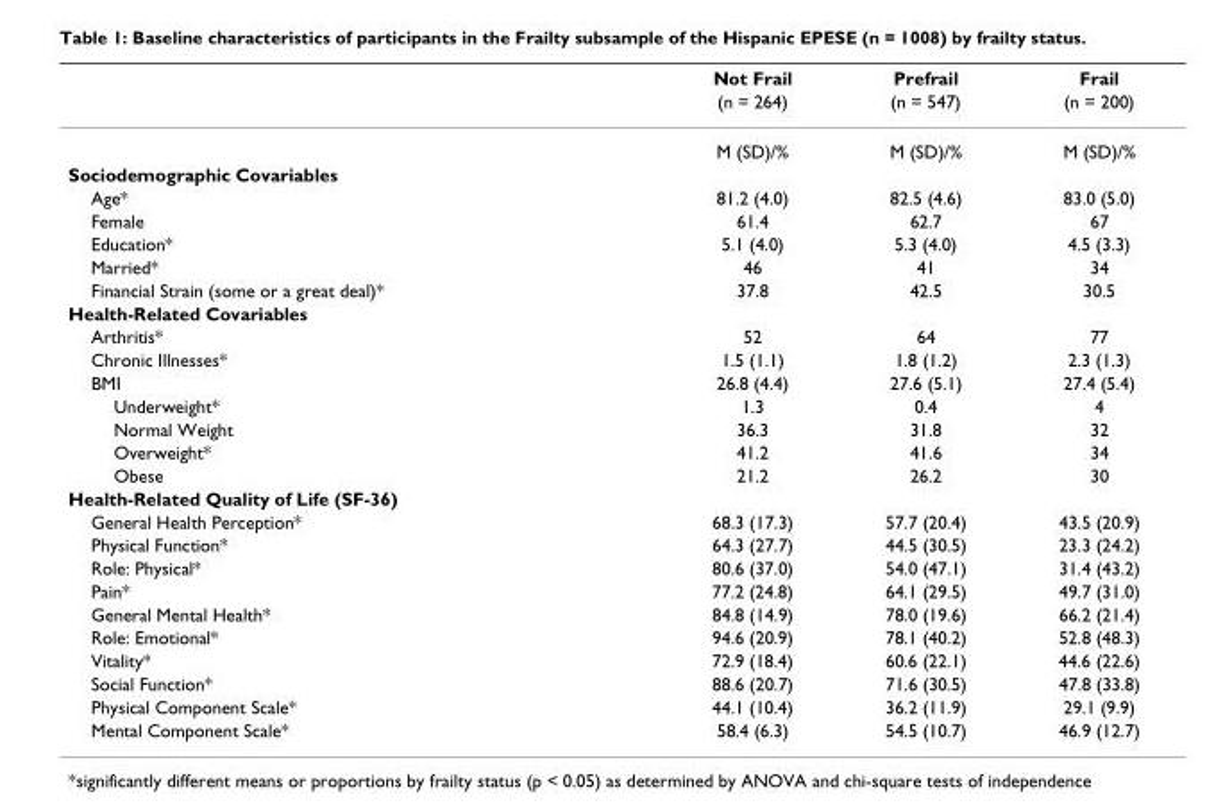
<table><thead><tr><td rowspan="2"></td><td rowspan="2">Not Frail (n = 264)</td><td rowspan="2">Prefrail (n = 547)</td><td rowspan="2">Frail (n = 200)</td></tr><tr></tr></thead><tbody><tr><td></td><td>M (SD)/%</td><td>M (SD)/%</td><td>M (SD)/%</td></tr><tr><td colspan="4">Sociodemographic Covariables</td></tr><tr><td>Age*</td><td>81.2 (4.0)</td><td>82.5 (4.6)</td><td>83.0 (5.0)</td></tr><tr><td>Female</td><td>61.4</td><td>62.7</td><td>67</td></tr><tr><td>Education*</td><td>5.1 (4.0)</td><td>5.3 (4.0)</td><td>4.5 (3.3)</td></tr><tr><td>Married*</td><td>46</td><td>41</td><td>34</td></tr><tr><td>Financial Strain (some or a great deal)*</td><td>37.8</td><td>42.5</td><td>30.5</td></tr><tr><td colspan="4">Health-Related Covariables</td></tr><tr><td>Arthritis*</td><td>52</td><td>64</td><td>77</td></tr><tr><td>Chronic Illnesses*</td><td>1.5 (1.1)</td><td>1.8 (1.2)</td><td>2.3 (1.3)</td></tr><tr><td>BMI</td><td>26.8 (4.4)</td><td>27.6 (5.1)</td><td>27.4 (5.4)</td></tr><tr><td>Underweight*</td><td>1.3</td><td>0.4</td><td>4</td></tr><tr><td>Normal Weight</td><td>36.3</td><td>31.8</td><td>32</td></tr><tr><td>Overweight*</td><td>41.2</td><td>41.6</td><td>34</td></tr><tr><td>Obese</td><td>21.2</td><td>26.2</td><td>30</td></tr><tr><td colspan="4">Health-Related Quality of Life (SF-36)</td></tr><tr><td>General Health Perception*</td><td>68.3 (17.3)</td><td>57.7 (20.4)</td><td>43.5 (20.9)</td></tr><tr><td>Physical Function*</td><td>64.3 (27.7)</td><td>44.5 (30.5)</td><td>23.3 (24.2)</td></tr><tr><td>Role: Physical*</td><td>80.6 (37.0)</td><td>54.0 (47.1)</td><td>31.4 (43.2)</td></tr><tr><td>Pain*</td><td>77.2 (24.8)</td><td>64.1 (29.5)</td><td>49.7 (31.0)</td></tr><tr><td>General Mental Health*</td><td>84.8 (14.9)</td><td>78.0 (19.6)</td><td>66.2 (21.4)</td></tr><tr><td>Role: Emotional*</td><td>94.6 (20.9)</td><td>78.1 (40.2)</td><td>52.8 (48.3)</td></tr><tr><td>Vitality*</td><td>72.9 (18.4)</td><td>60.6 (22.1)</td><td>44.6 (22.6)</td></tr><tr><td>Social Function*</td><td>88.6 (20.7)</td><td>71.6 (30.5)</td><td>47.8 (33.8)</td></tr><tr><td>Physical Component Scale*</td><td>44.1 (10.4)</td><td>36.2 (11.9)</td><td>29.1 (9.9)</td></tr><tr><td>Mental Component Scale*</td><td>58.4 (6.3)</td><td>54.5 (10.7)</td><td>46.9 (12.7)</td></tr></tbody></table>